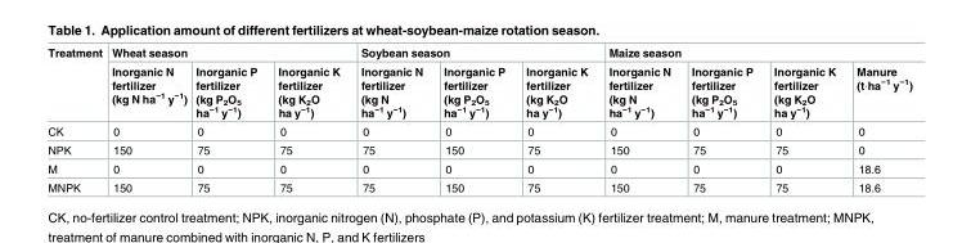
<table><thead><tr><td rowspan="2">Treatment</td><td colspan="3">Wheat season</td><td colspan="3">Soybean season</td><td colspan="4">Maize season</td></tr><tr><td>Inorganic N fertilizer (kg N ha<sup>−1</sup> y<sup>−1</sup>)</td><td>Inorganic P fertilizer (kg P<sub>2</sub>O<sub>5</sub> ha<sup>−1</sup> y<sup>−1</sup>)</td><td>Inorganic K fertilizer (kg K<sub>2</sub>O ha y<sup>−1</sup>)</td><td>Inorganic N fertilizer (kg N ha<sup>−1</sup> y<sup>−1</sup>)</td><td>Inorganic P fertilizer (kg P<sub>2</sub>O<sub>5</sub> ha<sup>−1</sup> y<sup>−1</sup>)</td><td>Inorganic K fertilizer (kg K<sub>2</sub>O ha y<sup>−1</sup>)</td><td>Inorganic N fertilizer (kg N ha<sup>−1</sup> y<sup>−1</sup>)</td><td>Inorganic P fertilizer (kg P<sub>2</sub>O<sub>5</sub> ha<sup>−1</sup> y<sup>−1</sup>)</td><td>Inorganic K fertilizer (kg K<sub>2</sub>O ha y<sup>−1</sup>)</td><td>Manure (t·ha<sup>−1</sup> y<sup>−1</sup>)</td></tr></thead><tbody><tr><td>CK</td><td>0</td><td>0</td><td>0</td><td>0</td><td>0</td><td>0</td><td>0</td><td>0</td><td>0</td><td>0</td></tr><tr><td>NPK</td><td>150</td><td>75</td><td>75</td><td>75</td><td>150</td><td>75</td><td>150</td><td>75</td><td>75</td><td>0</td></tr><tr><td>M</td><td>0</td><td>0</td><td>0</td><td>0</td><td>0</td><td>0</td><td>0</td><td>0</td><td>0</td><td>18.6</td></tr><tr><td>MNPK</td><td>150</td><td>75</td><td>75</td><td>75</td><td>150</td><td>75</td><td>150</td><td>75</td><td>75</td><td>18.6</td></tr></tbody></table>